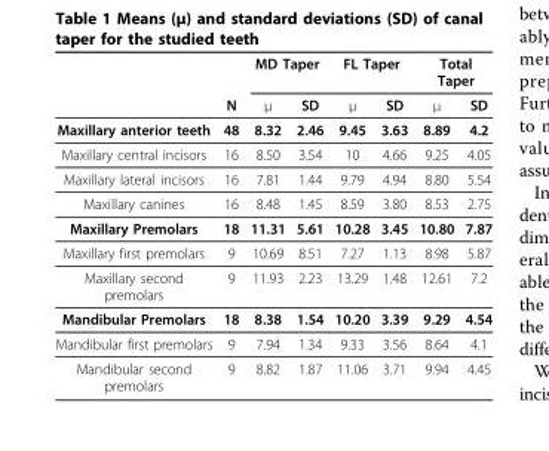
<table><thead><tr><td rowspan="2"></td><td rowspan="2">N</td><td colspan="2">MD Taper</td><td colspan="2">FL Taper</td><td colspan="2">Total Taper</td></tr><tr><td>μ</td><td>SD</td><td>μ</td><td>SD</td><td>μ</td><td>SD</td></tr></thead><tbody><tr><td>Maxillary anterior teeth</td><td>48</td><td>8.32</td><td>2.46</td><td>9.45</td><td>3.63</td><td>8.89</td><td>4.2</td></tr><tr><td>Maxillary central incisors</td><td>16</td><td>8.50</td><td>3.54</td><td>10</td><td>4.66</td><td>9.25</td><td>4.05</td></tr><tr><td>Maxillary lateral incisors</td><td>16</td><td>7.81</td><td>1.44</td><td>9.79</td><td>4.94</td><td>8.80</td><td>5.54</td></tr><tr><td>Maxillary canines</td><td>16</td><td>8.48</td><td>1.45</td><td>8.59</td><td>3.80</td><td>8.53</td><td>2.75</td></tr><tr><td>Maxillary Premolars</td><td>18</td><td>11.31</td><td>5.61</td><td>10.28</td><td>3.45</td><td>10.80</td><td>7.87</td></tr><tr><td>Maxillary first premolars</td><td>9</td><td>10.69</td><td>8.51</td><td>7.27</td><td>1.13</td><td>8.98</td><td>5.87</td></tr><tr><td>Maxillary second premolars</td><td>9</td><td>11.93</td><td>2.23</td><td>13.29</td><td>1.48</td><td>12.61</td><td>7.2</td></tr><tr><td>Mandibular Premolars</td><td>18</td><td>8.38</td><td>1.54</td><td>10.20</td><td>3.39</td><td>9.29</td><td>4.54</td></tr><tr><td>Mandibular first premolars</td><td>9</td><td>7.94</td><td>1.34</td><td>9.33</td><td>3.56</td><td>8.64</td><td>4.1</td></tr><tr><td>Mandibular second premolars</td><td>9</td><td>8.82</td><td>1.87</td><td>11.06</td><td>3.71</td><td>9.94</td><td>4.45</td></tr></tbody></table>